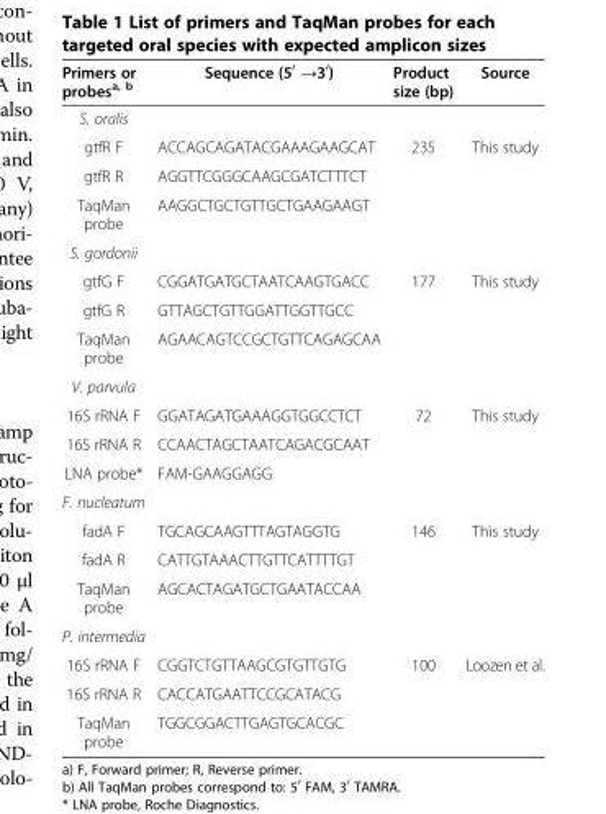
<table><thead><tr><td>Primers or probes<sup>a, b</sup></td><td>Sequence (50 →30)</td><td>Product size (bp)</td><td>Source</td></tr></thead><tbody><tr><td colspan="4">S. oralis</td></tr><tr><td>gtfR F</td><td>ACCAGCAGATACGAAAGAAGCAT</td><td>235</td><td>This study</td></tr><tr><td>gtfR R</td><td>AGGTTCGGGCAAGCGATCTTTCT</td><td></td><td></td></tr><tr><td>TaqMan probe</td><td>AAGGCTGCTGTTGCTGAAGAAGT</td><td></td><td></td></tr><tr><td colspan="4">S. gordonii</td></tr><tr><td>gtfG F</td><td>CGGATGATGCTAATCAAGTGACC</td><td>177</td><td>This study</td></tr><tr><td>gtfG R</td><td>GTTAGCTGTTGGATTGGTTGCC</td><td></td><td></td></tr><tr><td>TaqMan probe</td><td>AGAACAGTCCGCTGTTCAGAGCAA</td><td></td><td></td></tr><tr><td colspan="4">V. parvula</td></tr><tr><td>16S rRNA F</td><td>GGATAGATGAAAGGTGGCCTCT</td><td>72</td><td>This study</td></tr><tr><td>16S rRNA R</td><td>CCAACTAGCTAATCAGACGCAAT</td><td></td><td></td></tr><tr><td>LNA probe*</td><td>FAM-GAAGGAGG</td><td></td><td></td></tr><tr><td colspan="4">F. nucleatum</td></tr><tr><td>fadA F</td><td>TGCAGCAAGTTTAGTAGGTG</td><td>146</td><td>This study</td></tr><tr><td>fadA R</td><td>CATTGTAAACTTGTTCATTTTGT</td><td></td><td></td></tr><tr><td>TaqMan probe</td><td>AGCACTAGATGCTGAATACCAA</td><td></td><td></td></tr><tr><td colspan="4">P. intermedia</td></tr><tr><td>16S rRNA F</td><td>CGGTCTGTTAAGCGTGTTGTG</td><td>100</td><td>Loozen et al.</td></tr><tr><td>16S rRNA R</td><td>CACCATGAATTCCGCATACG</td><td></td><td></td></tr><tr><td>TaqMan probe</td><td>TGGCGGACTTGAGTGCACGC</td><td></td><td></td></tr></tbody></table>